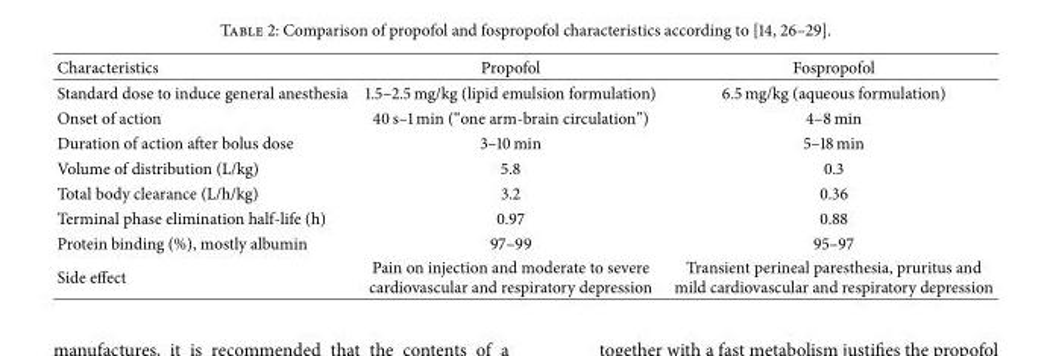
<table><thead><tr><td>Characteristics</td><td>Propofol</td><td>Fospropofol</td></tr></thead><tbody><tr><td>Standard dose to induce general anesthesia</td><td>1.5–2.5 mg/kg (lipid emulsion formulation)</td><td>6.5 mg/kg (aqueous formulation)</td></tr><tr><td>Onset of action</td><td>40 s–1 min (“one arm-brain circulation”)</td><td>4–8 min</td></tr><tr><td>Duration of action after bolus dose</td><td>3–10 min</td><td>5–18 min</td></tr><tr><td>Volume of distribution (L/kg)</td><td>5.8</td><td>0.3</td></tr><tr><td>Total body clearance (L/h/kg)</td><td>3.2</td><td>0.36</td></tr><tr><td>Terminal phase elimination half-life (h)</td><td>0.97</td><td>0.88</td></tr><tr><td>Protein binding (%), mostly albumin</td><td>97–99</td><td>95–97</td></tr><tr><td>Side effect</td><td>Pain on injection and moderate to severe cardiovascular and respiratory depression</td><td>Transient perineal paresthesia, pruritus and mild cardiovascular and respiratory depression</td></tr></tbody></table>